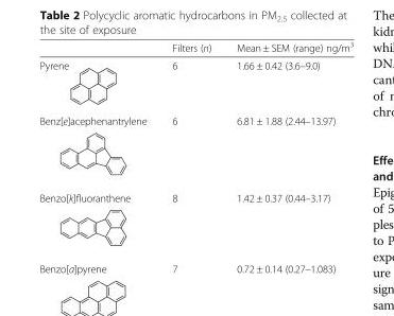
<table><thead><tr><td></td><td>Filters (n)</td><td>Mean ± SEM (range) ng/m<sup>3</sup></td></tr></thead><tbody><tr><td>Pyrene</td><td>6</td><td>1.66 ± 0.42 (3.6–9.0)</td></tr><tr><td>Benz[e]acephenantrylene</td><td>6</td><td>6.81 ± 1.88 (2.44–13.97)</td></tr><tr><td>Benzo[k]fluoranthene</td><td>8</td><td>1.42 ± 0.37 (0.44–3.17)</td></tr><tr><td>Benzo[a]pyrene</td><td>7</td><td>0.72 ± 0.14 (0.27–1.083)</td></tr></tbody></table>